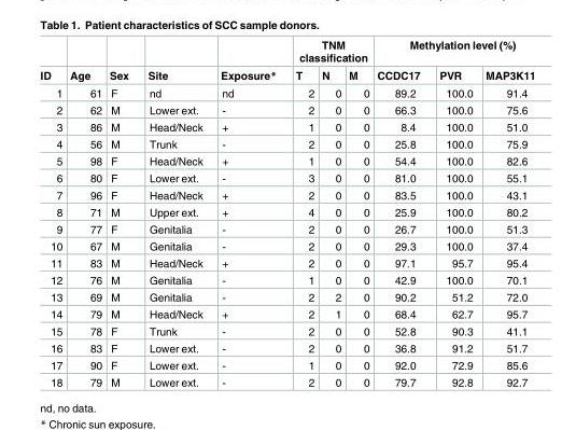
<table><thead><tr><td rowspan="2">ID</td><td rowspan="2">Age</td><td rowspan="2">Sex</td><td rowspan="2">Site</td><td rowspan="2">Exposure*</td><td colspan="3">TNM classification</td><td colspan="3">Methylation level (%)</td></tr><tr><td>T</td><td>N</td><td>M</td><td>CCDC17</td><td>PVR</td><td>MAP3K11</td></tr></thead><tbody><tr><td>1</td><td>61</td><td>F</td><td>nd</td><td>nd</td><td>2</td><td>0</td><td>0</td><td>89.2</td><td>100.0</td><td>91.4</td></tr><tr><td>2</td><td>62</td><td>M</td><td>Lower ext.</td><td>-</td><td>2</td><td>0</td><td>0</td><td>66.3</td><td>100.0</td><td>75.6</td></tr><tr><td>3</td><td>86</td><td>M</td><td>Head/Neck</td><td>+</td><td>1</td><td>0</td><td>0</td><td>8.4</td><td>100.0</td><td>51.0</td></tr><tr><td>4</td><td>56</td><td>M</td><td>Trunk</td><td>-</td><td>2</td><td>0</td><td>0</td><td>25.8</td><td>100.0</td><td>75.9</td></tr><tr><td>5</td><td>98</td><td>F</td><td>Head/Neck</td><td>+</td><td>1</td><td>0</td><td>0</td><td>54.4</td><td>100.0</td><td>82.6</td></tr><tr><td>6</td><td>80</td><td>F</td><td>Lower ext.</td><td>-</td><td>3</td><td>0</td><td>0</td><td>81.0</td><td>100.0</td><td>55.1</td></tr><tr><td>7</td><td>96</td><td>F</td><td>Head/Neck</td><td>+</td><td>2</td><td>0</td><td>0</td><td>83.5</td><td>100.0</td><td>43.1</td></tr><tr><td>8</td><td>71</td><td>M</td><td>Upper ext.</td><td>+</td><td>4</td><td>0</td><td>0</td><td>25.9</td><td>100.0</td><td>80.2</td></tr><tr><td>9</td><td>77</td><td>F</td><td>Genitalia</td><td>-</td><td>2</td><td>0</td><td>0</td><td>26.7</td><td>100.0</td><td>51.3</td></tr><tr><td>10</td><td>67</td><td>M</td><td>Genitalia</td><td>-</td><td>2</td><td>0</td><td>0</td><td>29.3</td><td>100.0</td><td>37.4</td></tr><tr><td>11</td><td>83</td><td>M</td><td>Head/Neck</td><td>+</td><td>2</td><td>0</td><td>0</td><td>97.1</td><td>95.7</td><td>95.4</td></tr><tr><td>12</td><td>76</td><td>M</td><td>Genitalia</td><td>-</td><td>1</td><td>0</td><td>0</td><td>42.9</td><td>100.0</td><td>70.1</td></tr><tr><td>13</td><td>69</td><td>M</td><td>Genitalia</td><td>-</td><td>2</td><td>2</td><td>0</td><td>90.2</td><td>51.2</td><td>72.0</td></tr><tr><td>14</td><td>79</td><td>M</td><td>Head/Neck</td><td>+</td><td>2</td><td>1</td><td>0</td><td>68.4</td><td>62.7</td><td>95.7</td></tr><tr><td>15</td><td>78</td><td>F</td><td>Trunk</td><td>-</td><td>2</td><td>0</td><td>0</td><td>52.8</td><td>90.3</td><td>41.1</td></tr><tr><td>16</td><td>83</td><td>F</td><td>Lower ext.</td><td>-</td><td>2</td><td>0</td><td>0</td><td>36.8</td><td>91.2</td><td>51.7</td></tr><tr><td>17</td><td>90</td><td>F</td><td>Lower ext.</td><td>-</td><td>1</td><td>0</td><td>0</td><td>92.0</td><td>72.9</td><td>85.6</td></tr><tr><td>18</td><td>79</td><td>M</td><td>Lower ext.</td><td>-</td><td>2</td><td>0</td><td>0</td><td>79.7</td><td>92.8</td><td>92.7</td></tr></tbody></table>